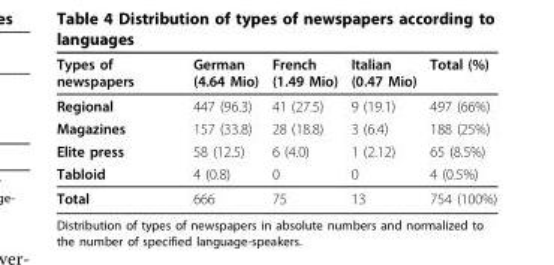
<table><thead><tr><td>Types of newspapers</td><td>German (4.64 Mio)</td><td>French (1.49 Mio)</td><td>Italian (0.47 Mio)</td><td>Total (%)</td></tr></thead><tbody><tr><td>Regional</td><td>447 (96.3)</td><td>41 (27.5)</td><td>9 (19.1)</td><td>497 (66%)</td></tr><tr><td>Magazines</td><td>157 (33.8)</td><td>28 (18.8)</td><td>3 (6.4)</td><td>188 (25%)</td></tr><tr><td>Elite press</td><td>58 (12.5)</td><td>6 (4.0)</td><td>1 (2.12)</td><td>65 (8.5%)</td></tr><tr><td>Tabloid</td><td>4 (0.8)</td><td>0</td><td>0</td><td>4 (0.5%)</td></tr><tr><td>Total</td><td>666</td><td>75</td><td>13</td><td>754 (100%)</td></tr></tbody></table>